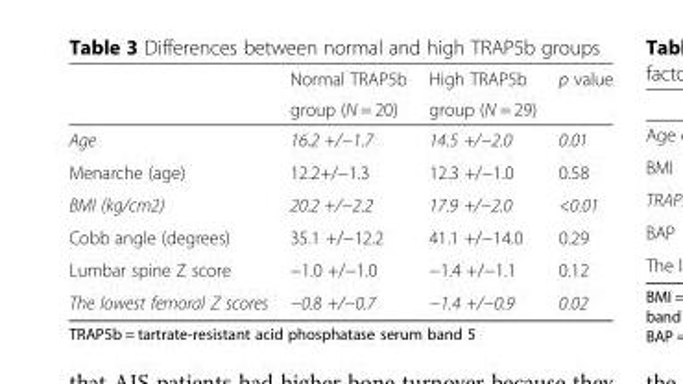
<table><thead><tr><td rowspan="2"></td><td rowspan="2">Normal TRAP5b group (N = 20)</td><td rowspan="2">High TRAP5b group (N = 29)</td><td rowspan="2">p value</td></tr><tr></tr></thead><tbody><tr><td>Age</td><td>16.2 +/−1.7</td><td>14.5 +/−2.0</td><td>0.01</td></tr><tr><td>Menarche (age)</td><td>12.2+/−1.3</td><td>12.3 +/−1.0</td><td>0.58</td></tr><tr><td>BMI (kg/cm2)</td><td>20.2 +/−2.2</td><td>17.9 +/−2.0</td><td>&lt;0.01</td></tr><tr><td>Cobb angle (degrees)</td><td>35.1 +/−12.2</td><td>41.1 +/−14.0</td><td>0.29</td></tr><tr><td>Lumbar spine Z score</td><td>−1.0 +/−1.0</td><td>−1.4 +/−1.1</td><td>0.12</td></tr><tr><td>The lowest femoral Z scores</td><td>−0.8 +/−0.7</td><td>−1.4 +/−0.9</td><td>0.02</td></tr></tbody></table>